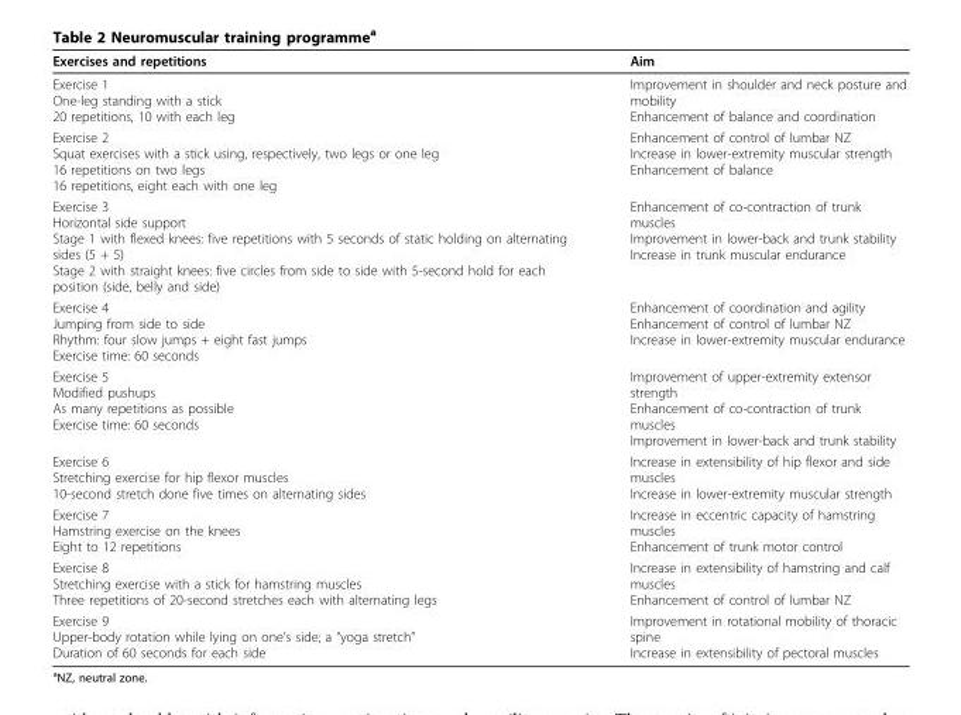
<table><thead><tr><td>Exercises and repetitions</td><td>Aim</td></tr></thead><tbody><tr><td>Exercise 1 One-leg standing with a stick 20 repetitions, 10 with each leg</td><td>Improvement in shoulder and neck posture and mobility Enhancement of balance and coordination</td></tr><tr><td>Exercise 2 Squat exercises with a stick using, respectively, two legs or one leg 16 repetitions on two legs 16 repetitions, eight each with one leg</td><td>Enhancement of control of lumbar NZ Increase in lower-extremity muscular strength Enhancement of balance</td></tr><tr><td>Exercise 3 Horizontal side support Stage 1 with flexed knees: five repetitions with 5 seconds of static holding on alternating sides (5 + 5) Stage 2 with straight knees: five circles from side to side with 5-second hold for each position (side, belly and side)</td><td>Enhancement of co-contraction of trunk muscles Improvement in lower-back and trunk stability Increase in trunk muscular endurance</td></tr><tr><td>Exercise 4 Jumping from side to side Rhythm: four slow jumps + eight fast jumps Exercise time: 60 seconds</td><td>Enhancement of coordination and agility Enhancement of control of lumbar NZ Increase in lower-extremity muscular endurance</td></tr><tr><td>Exercise 5 Modified pushups As many repetitions as possible Exercise time: 60 seconds</td><td>Improvement of upper-extremity extensor strength Enhancement of co-contraction of trunk muscles Improvement in lower-back and trunk stability</td></tr><tr><td>Exercise 6 Stretching exercise for hip flexor muscles 10-second stretch done five times on alternating sides</td><td>Increase in extensibility of hip flexor and side muscles Increase in lower-extremity muscular strength</td></tr><tr><td>Exercise 7 Hamstring exercise on the knees Eight to 12 repetitions</td><td>Increase in eccentric capacity of hamstring muscles Enhancement of trunk motor control</td></tr><tr><td>Exercise 8 Stretching exercise with a stick for hamstring muscles Three repetitions of 20-second stretches each with alternating legs</td><td>Increase in extensibility of hamstring and calf muscles Enhancement of control of lumbar NZ</td></tr><tr><td>Exercise 9 Upper-body rotation while lying on one’s side; a “yoga stretch” Duration of 60 seconds for each side</td><td>Improvement in rotational mobility of thoracic spine Increase in extensibility of pectoral muscles</td></tr></tbody></table>